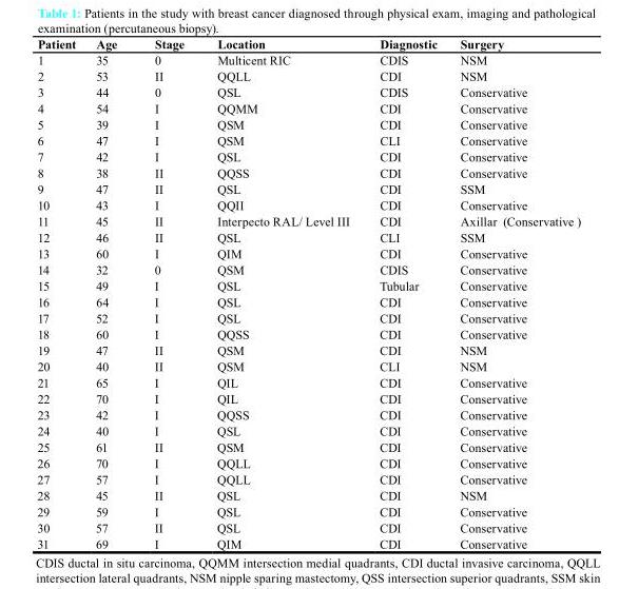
<table><thead><tr><td>Patient</td><td>Age</td><td>Stage</td><td>Location</td><td>Diagnostic</td><td>Surgery</td></tr></thead><tbody><tr><td>1</td><td>35</td><td>0</td><td>Multicent RIC</td><td>CDIS</td><td>NSM</td></tr><tr><td>2</td><td>53</td><td>II</td><td>QQLL</td><td>CDI</td><td>NSM</td></tr><tr><td>3</td><td>44</td><td>0</td><td>QSL</td><td>CDIS</td><td>Conservative</td></tr><tr><td>4</td><td>54</td><td>I</td><td>QQMM</td><td>CDI</td><td>Conservative</td></tr><tr><td>5</td><td>39</td><td>I</td><td>QSM</td><td>CDI</td><td>Conservative</td></tr><tr><td>6</td><td>47</td><td>I</td><td>QSM</td><td>CLI</td><td>Conservative</td></tr><tr><td>7</td><td>42</td><td>I</td><td>QSL</td><td>CDI</td><td>Conservative</td></tr><tr><td>8</td><td>38</td><td>II</td><td>QQSS</td><td>CDI</td><td>Conservative</td></tr><tr><td>9</td><td>47</td><td>II</td><td>QSL</td><td>CDI</td><td>SSM</td></tr><tr><td>10</td><td>43</td><td>I</td><td>QQII</td><td>CDI</td><td>Conservative</td></tr><tr><td>11</td><td>45</td><td>II</td><td>Interpecto RAL/ Level III</td><td>CDI</td><td>Axillar (Conservative )</td></tr><tr><td>12</td><td>46</td><td>II</td><td>QSL</td><td>CLI</td><td>SSM</td></tr><tr><td>13</td><td>60</td><td>I</td><td>QIM</td><td>CDI</td><td>Conservative</td></tr><tr><td>14</td><td>32</td><td>0</td><td>QSM</td><td>CDIS</td><td>Conservative</td></tr><tr><td>15</td><td>49</td><td>I</td><td>QSL</td><td>Tubular</td><td>Conservative</td></tr><tr><td>16</td><td>64</td><td>I</td><td>QSL</td><td>CDI</td><td>Conservative</td></tr><tr><td>17</td><td>52</td><td>I</td><td>QSL</td><td>CDI</td><td>Conservative</td></tr><tr><td>18</td><td>60</td><td>I</td><td>QQSS</td><td>CDI</td><td>Conservative</td></tr><tr><td>19</td><td>47</td><td>II</td><td>QSM</td><td>CDI</td><td>NSM</td></tr><tr><td>20</td><td>40</td><td>II</td><td>QSM</td><td>CLI</td><td>NSM</td></tr><tr><td>21</td><td>65</td><td>I</td><td>QIL</td><td>CDI</td><td>Conservative</td></tr><tr><td>22</td><td>70</td><td>I</td><td>QIL</td><td>CDI</td><td>Conservative</td></tr><tr><td>23</td><td>42</td><td>I</td><td>QQSS</td><td>CDI</td><td>Conservative</td></tr><tr><td>24</td><td>40</td><td>I</td><td>QSL</td><td>CDI</td><td>Conservative</td></tr><tr><td>25</td><td>61</td><td>II</td><td>QSM</td><td>CDI</td><td>Conservative</td></tr><tr><td>26</td><td>70</td><td>I</td><td>QQLL</td><td>CDI</td><td>Conservative</td></tr><tr><td>27</td><td>57</td><td>I</td><td>QQLL</td><td>CDI</td><td>Conservative</td></tr><tr><td>28</td><td>45</td><td>II</td><td>QSL</td><td>CDI</td><td>NSM</td></tr><tr><td>29</td><td>59</td><td>I</td><td>QSL</td><td>CDI</td><td>Conservative</td></tr><tr><td>30</td><td>57</td><td>II</td><td>QSL</td><td>CDI</td><td>Conservative</td></tr><tr><td>31</td><td>69</td><td>I</td><td>QIM</td><td>CDI</td><td>Conservative</td></tr></tbody></table>